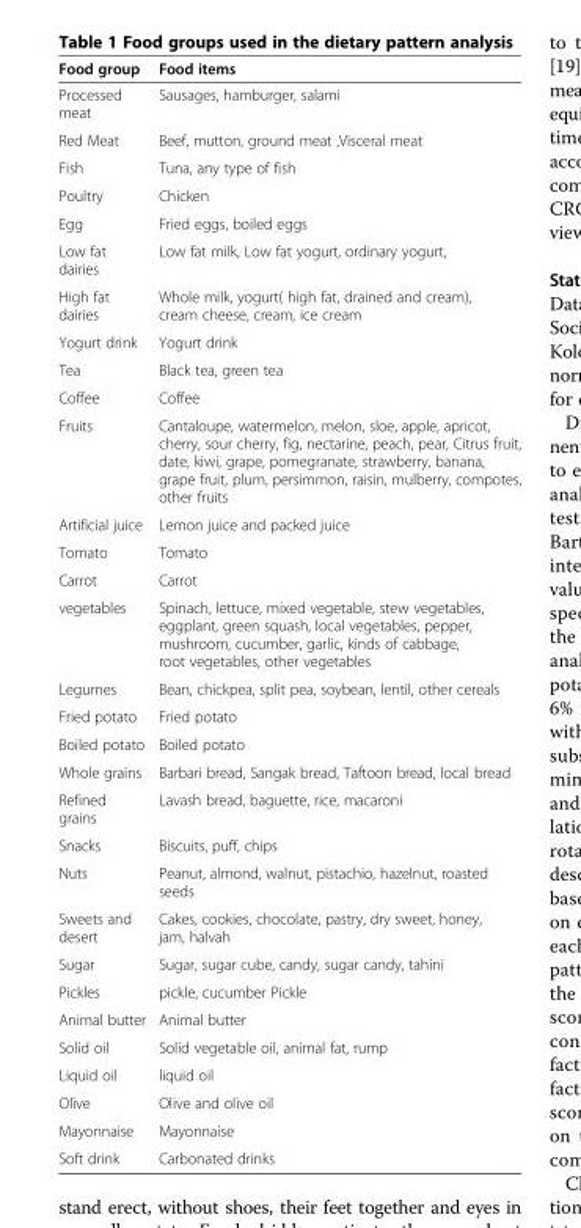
<table><thead><tr><td>Food group</td><td>Food items</td></tr></thead><tbody><tr><td>Processed meat</td><td>Sausages, hamburger, salami</td></tr><tr><td>Red Meat</td><td>Beef, mutton, ground meat ,Visceral meat</td></tr><tr><td>Fish</td><td>Tuna, any type of fish</td></tr><tr><td>Poultry</td><td>Chicken</td></tr><tr><td>Egg</td><td>Fried eggs, boiled eggs</td></tr><tr><td>Low fat dairies</td><td>Low fat milk, Low fat yogurt, ordinary yogurt,</td></tr><tr><td>High fat dairies</td><td>Whole milk, yogurt( high fat, drained and cream), cream cheese, cream, ice cream</td></tr><tr><td>Yogurt drink</td><td>Yogurt drink</td></tr><tr><td>Tea</td><td>Black tea, green tea</td></tr><tr><td>Coffee</td><td>Coffee</td></tr><tr><td>Fruits</td><td>Cantaloupe, watermelon, melon, sloe, apple, apricot, cherry, sour cherry, fig, nectarine, peach, pear, Citrus fruit, date, kiwi, grape, pomegranate, strawberry, banana, grape fruit, plum, persimmon, raisin, mulberry, compotes, other fruits</td></tr><tr><td>Artificial juice</td><td>Lemon juice and packed juice</td></tr><tr><td>Tomato</td><td>Tomato</td></tr><tr><td>Carrot</td><td>Carrot</td></tr><tr><td>vegetables</td><td>Spinach, lettuce, mixed vegetable, stew vegetables, eggplant, green squash, local vegetables, pepper, mushroom, cucumber, garlic, kinds of cabbage, root vegetables, other vegetables</td></tr><tr><td>Legumes</td><td>Bean, chickpea, split pea, soybean, lentil, other cereals</td></tr><tr><td>Fried potato</td><td>Fried potato</td></tr><tr><td>Boiled potato</td><td>Boiled potato</td></tr><tr><td>Whole grains</td><td>Barbari bread, Sangak bread, Taftoon bread, local bread</td></tr><tr><td>Refined grains</td><td>Lavash bread, baguette, rice, macaroni</td></tr><tr><td>Snacks</td><td>Biscuits, puff, chips</td></tr><tr><td>Nuts</td><td>Peanut, almond, walnut, pistachio, hazelnut, roasted seeds</td></tr><tr><td>Sweets and desert</td><td>Cakes, cookies, chocolate, pastry, dry sweet, honey, jam, halvah</td></tr><tr><td>Sugar</td><td>Sugar, sugar cube, candy, sugar candy, tahini</td></tr><tr><td>Pickles</td><td>pickle, cucumber Pickle</td></tr><tr><td>Animal butter</td><td>Animal butter</td></tr><tr><td>Solid oil</td><td>Solid vegetable oil, animal fat, rump</td></tr><tr><td>Liquid oil</td><td>liquid oil</td></tr><tr><td>Olive</td><td>Olive and olive oil</td></tr><tr><td>Mayonnaise</td><td>Mayonnaise</td></tr><tr><td>Soft drink</td><td>Carbonated drinks</td></tr></tbody></table>